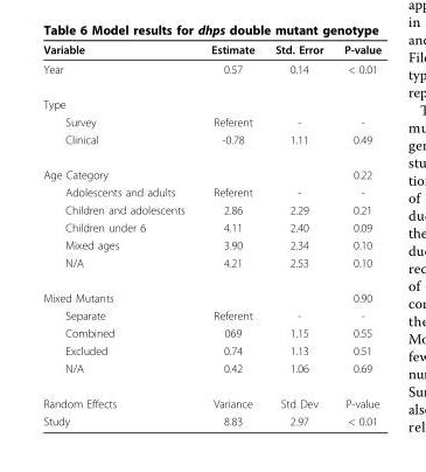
<table><thead><tr><td>Variable</td><td>Estimate</td><td>Std. Error</td><td>P-value</td></tr></thead><tbody><tr><td>Year</td><td>0.57</td><td>0.14</td><td>&lt; 0.01</td></tr><tr><td colspan="4">Type</td></tr><tr><td>Survey</td><td>Referent</td><td>-</td><td>-</td></tr><tr><td>Clinical</td><td>-0.78</td><td>1.11</td><td>0.49</td></tr><tr><td>Age Category</td><td></td><td></td><td>0.22</td></tr><tr><td>Adolescents and adults</td><td>Referent</td><td>-</td><td>-</td></tr><tr><td>Children and adolescents</td><td>2.86</td><td>2.29</td><td>0.21</td></tr><tr><td>Children under 6</td><td>4.11</td><td>2.40</td><td>0.09</td></tr><tr><td>Mixed ages</td><td>3.90</td><td>2.34</td><td>0.10</td></tr><tr><td>N/A</td><td>4.21</td><td>2.53</td><td>0.10</td></tr><tr><td>Mixed Mutants</td><td></td><td></td><td>0.90</td></tr><tr><td>Separate</td><td>Referent</td><td>-</td><td>-</td></tr><tr><td>Combined</td><td>069</td><td>1.15</td><td>0.55</td></tr><tr><td>Excluded</td><td>0.74</td><td>1.13</td><td>0.51</td></tr><tr><td>N/A</td><td>0.42</td><td>1.06</td><td>0.69</td></tr><tr><td>Random Effects</td><td>Variance</td><td>Std Dev</td><td>P-value</td></tr><tr><td>Study</td><td>8.83</td><td>2.97</td><td>&lt; 0.01</td></tr></tbody></table>